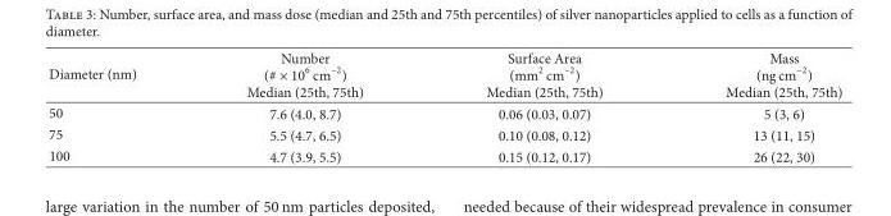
<table><thead><tr><td>Diameter (nm)</td><td>Number (# × 10<sup>6</sup> cm<sup>−2</sup>) Median (25th, 75th)</td><td>Surface Area (mm<sup>2</sup> cm<sup>−2</sup>) Median (25th, 75th)</td><td>Mass (ng cm<sup>−2</sup>) Median (25th, 75th)</td></tr></thead><tbody><tr><td>50</td><td>7.6 (4.0, 8.7)</td><td>0.06 (0.03, 0.07)</td><td>5 (3, 6)</td></tr><tr><td>75</td><td>5.5 (4.7, 6.5)</td><td>0.10 (0.08, 0.12)</td><td>13 (11, 15)</td></tr><tr><td>100</td><td>4.7 (3.9, 5.5)</td><td>0.15 (0.12, 0.17)</td><td>26 (22, 30)</td></tr></tbody></table>